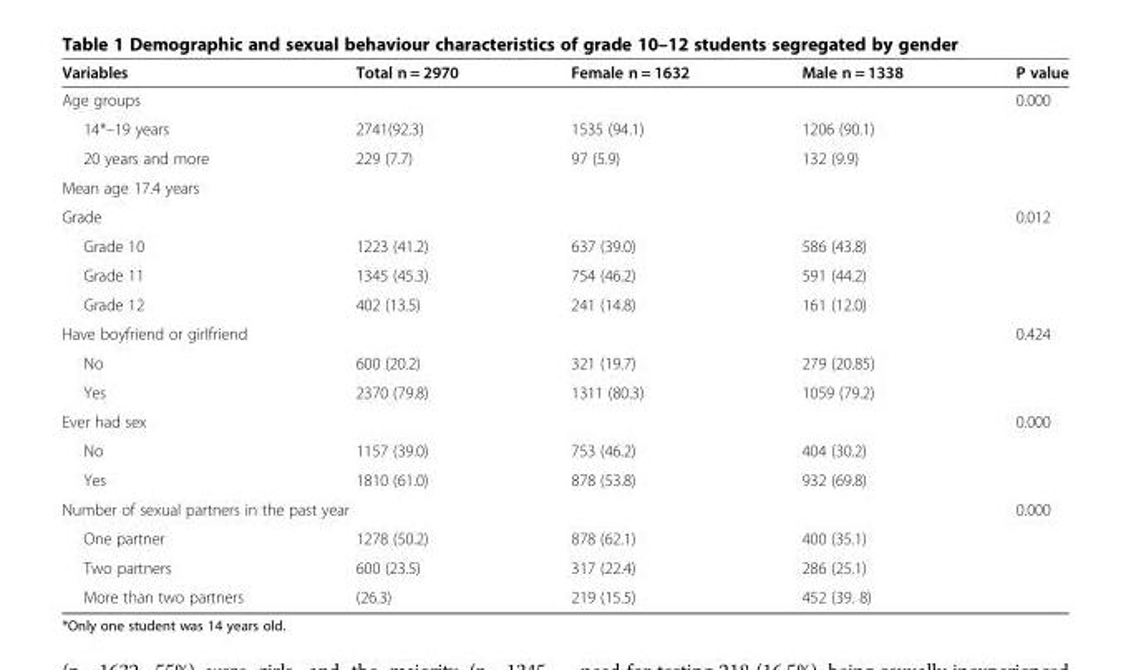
<table><thead><tr><td>Variables</td><td>Total n = 2970</td><td>Female n = 1632</td><td>Male n = 1338</td><td>P value</td></tr></thead><tbody><tr><td>Age groups</td><td></td><td></td><td></td><td>0.000</td></tr><tr><td>14*–19 years</td><td>2741(92.3)</td><td>1535 (94.1)</td><td>1206 (90.1)</td><td></td></tr><tr><td>20 years and more</td><td>229 (7.7)</td><td>97 (5.9)</td><td>132 (9.9)</td><td></td></tr><tr><td colspan="5">Mean age 17.4 years</td></tr><tr><td>Grade</td><td></td><td></td><td></td><td>0.012</td></tr><tr><td>Grade 10</td><td>1223 (41.2)</td><td>637 (39.0)</td><td>586 (43.8)</td><td></td></tr><tr><td>Grade 11</td><td>1345 (45.3)</td><td>754 (46.2)</td><td>591 (44.2)</td><td></td></tr><tr><td>Grade 12</td><td>402 (13.5)</td><td>241 (14.8)</td><td>161 (12.0)</td><td></td></tr><tr><td colspan="2">Have boyfriend or girlfriend</td><td></td><td></td><td>0.424</td></tr><tr><td>No</td><td>600 (20.2)</td><td>321 (19.7)</td><td>279 (20.85)</td><td></td></tr><tr><td>Yes</td><td>2370 (79.8)</td><td>1311 (80.3)</td><td>1059 (79.2)</td><td></td></tr><tr><td>Ever had sex</td><td></td><td></td><td></td><td>0.000</td></tr><tr><td>No</td><td>1157 (39.0)</td><td>753 (46.2)</td><td>404 (30.2)</td><td></td></tr><tr><td>Yes</td><td>1810 (61.0)</td><td>878 (53.8)</td><td>932 (69.8)</td><td></td></tr><tr><td colspan="2">Number of sexual partners in the past year</td><td></td><td></td><td>0.000</td></tr><tr><td>One partner</td><td>1278 (50.2)</td><td>878 (62.1)</td><td>400 (35.1)</td><td></td></tr><tr><td>Two partners</td><td>600 (23.5)</td><td>317 (22.4)</td><td>286 (25.1)</td><td></td></tr><tr><td>More than two partners</td><td>(26.3)</td><td>219 (15.5)</td><td>452 (39. 8)</td><td></td></tr></tbody></table>